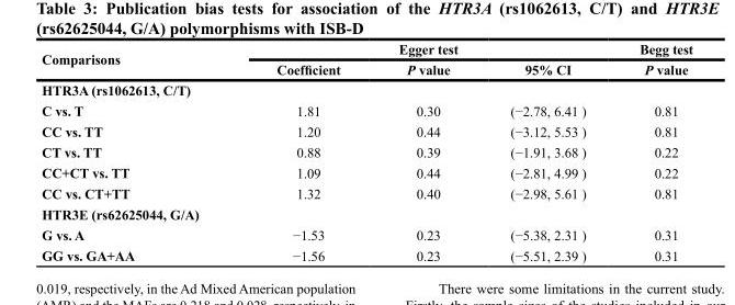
<table><thead><tr><td rowspan="2">Comparisons</td><td colspan="3">Egger test</td><td rowspan="2">Begg test P value</td></tr><tr><td>Coefficient</td><td>P value</td><td>95% CI</td></tr></thead><tbody><tr><td colspan="5">HTR3A (rs1062613, C/T)</td></tr><tr><td>C vs. T</td><td>1.81</td><td>0.30</td><td>(−2.78, 6.41 )</td><td>0.81</td></tr><tr><td>CC vs. TT</td><td>1.20</td><td>0.44</td><td>(−3.12, 5.53 )</td><td>0.81</td></tr><tr><td>CT vs. TT</td><td>0.88</td><td>0.39</td><td>(−1.91, 3.68 )</td><td>0.22</td></tr><tr><td>CC+CT vs. TT</td><td>1.09</td><td>0.44</td><td>(−2.81, 4.99 )</td><td>0.22</td></tr><tr><td>CC vs. CT+TT</td><td>1.32</td><td>0.40</td><td>(−2.98, 5.61 )</td><td>0.81</td></tr><tr><td colspan="5">HTR3E (rs62625044, G/A)</td></tr><tr><td>G vs. A</td><td>−1.53</td><td>0.23</td><td>(−5.38, 2.31 )</td><td>0.31</td></tr><tr><td>GG vs. GA+AA</td><td>−1.56</td><td>0.23</td><td>(−5.51, 2.39 )</td><td>0.31</td></tr></tbody></table>